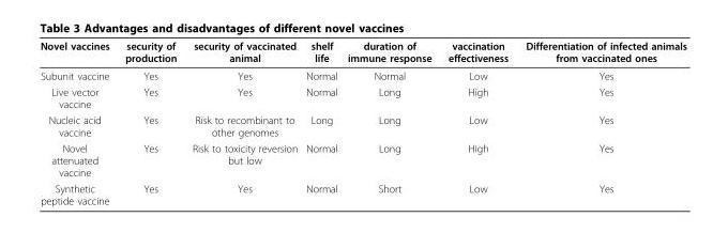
<table><thead><tr><td>Novel vaccines</td><td>security of production</td><td>security of vaccinated animal</td><td>shelf life</td><td>duration of immune response</td><td>vaccination effectiveness</td><td>Differentiation of infected animals from vaccinated ones</td></tr></thead><tbody><tr><td>Subunit vaccine</td><td>Yes</td><td>Yes</td><td>Normal</td><td>Normal</td><td>Low</td><td>Yes</td></tr><tr><td>Live vector vaccine</td><td>Yes</td><td>Yes</td><td>Normal</td><td>Long</td><td>High</td><td>Yes</td></tr><tr><td>Nucleic acid vaccine</td><td>Yes</td><td>Risk to recombinant to other genomes</td><td>Long</td><td>Long</td><td>Low</td><td>Yes</td></tr><tr><td>Novel attenuated vaccine</td><td>Yes</td><td>Risk to toxicity reversion but low</td><td>Normal</td><td>Long</td><td>High</td><td>Yes</td></tr><tr><td>Synthetic peptide vaccine</td><td>Yes</td><td>Yes</td><td>Normal</td><td>Short</td><td>Low</td><td>Yes</td></tr></tbody></table>